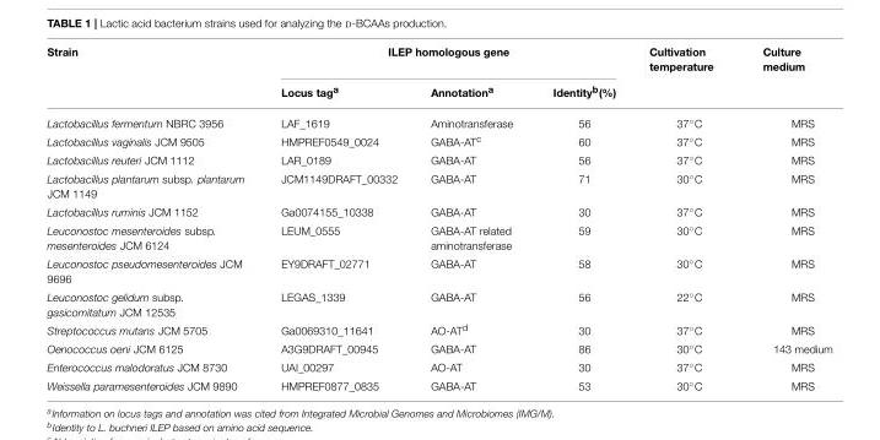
<table><thead><tr><td rowspan="2">Strain</td><td colspan="3">ILEP homologous gene</td><td rowspan="2">Cultivation temperature</td><td rowspan="2">Culture medium</td></tr><tr><td>Locus tag<sup>a</sup></td><td>Annotation<sup>a</sup></td><td>Identity<sup>b</sup>(%)</td></tr></thead><tbody><tr><td>Lactobacillus fermentum NBRC 3956</td><td>LAF_1619</td><td>Aminotransferase</td><td>56</td><td>37◦C</td><td>MRS</td></tr><tr><td>Lactobacillus vaginalis JCM 9505</td><td>HMPREF0549_0024</td><td>GABA-AT<sup>c</sup></td><td>60</td><td>37◦C</td><td>MRS</td></tr><tr><td>Lactobacillus reuteri JCM 1112</td><td>LAR_0189</td><td>GABA-AT</td><td>56</td><td>37◦C</td><td>MRS</td></tr><tr><td>Lactobacillus plantarum subsp. plantarum JCM 1149</td><td>JCM1149DRAFT_00332</td><td>GABA-AT</td><td>71</td><td>30◦C</td><td>MRS</td></tr><tr><td>Lactobacillus ruminis JCM 1152</td><td>Ga0074155_10338</td><td>GABA-AT</td><td>30</td><td>37◦C</td><td>MRS</td></tr><tr><td>Leuconostoc mesenteroides subsp. mesenteroides JCM 6124</td><td>LEUM_0555</td><td>GABA-AT related aminotransferase</td><td>59</td><td>30◦C</td><td>MRS</td></tr><tr><td>Leuconostoc pseudomesenteroides JCM 9696</td><td>EY9DRAFT_02771</td><td>GABA-AT</td><td>58</td><td>30◦C</td><td>MRS</td></tr><tr><td>Leuconostoc gelidum subsp. gasicomitatum JCM 12535</td><td>LEGAS_1339</td><td>GABA-AT</td><td>56</td><td>22◦C</td><td>MRS</td></tr><tr><td>Streptococcus mutans JCM 5705</td><td>Ga0069310_11641</td><td>AO-AT<sup>d</sup></td><td>30</td><td>37◦C</td><td>MRS</td></tr><tr><td>Oenococcus oeni JCM 6125</td><td>A3G9DRAFT_00945</td><td>GABA-AT</td><td>86</td><td>30◦C</td><td>143 medium</td></tr><tr><td>Enterococcus malodoratus JCM 8730</td><td>UAI_00297</td><td>AO-AT</td><td>30</td><td>37◦C</td><td>MRS</td></tr><tr><td>Weissella paramesenteroides JCM 9890</td><td>HMPREF0877_0835</td><td>GABA-AT</td><td>53</td><td>30◦C</td><td>MRS</td></tr></tbody></table>